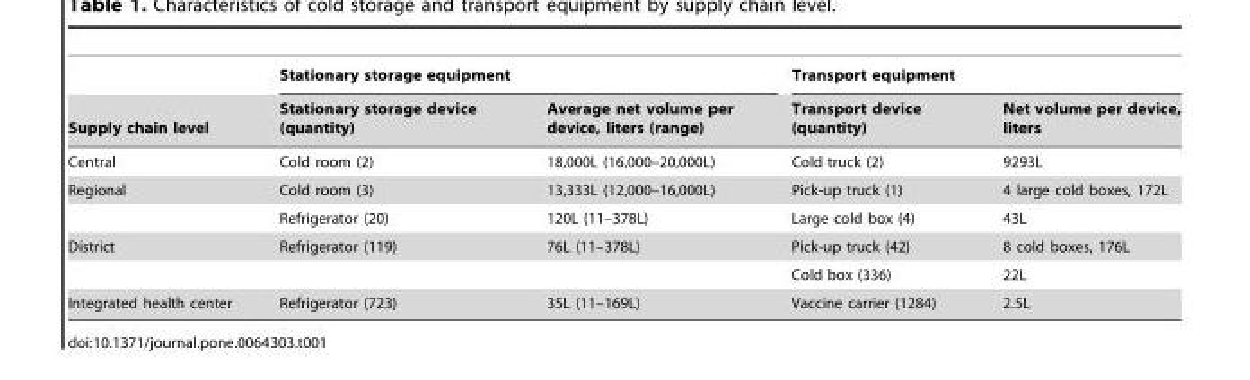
<table><thead><tr><td rowspan="2">Supply chain level</td><td colspan="2">Stationary storage equipment</td><td colspan="2">Transport equipment</td></tr><tr><td>Stationary storage device (quantity)</td><td>Average net volume per device, liters (range)</td><td>Transport device (quantity)</td><td>Net volume per device, liters</td></tr></thead><tbody><tr><td>Central</td><td>Cold room (2)</td><td>18,000L (16,000–20,000L)</td><td>Cold truck (2)</td><td>9293L</td></tr><tr><td rowspan="2">Regional</td><td>Cold room (3)</td><td>13,333L (12,000–16,000L)</td><td>Pick-up truck (1)</td><td>4 large cold boxes, 172L</td></tr><tr><td>Refrigerator (20)</td><td>120L (11–378L)</td><td>Large cold box (4)</td><td>43L</td></tr><tr><td rowspan="2">District</td><td>Refrigerator (119)</td><td>76L (11–378L)</td><td>Pick-up truck (42)</td><td>8 cold boxes, 176L</td></tr><tr><td></td><td></td><td>Cold box (336)</td><td>22L</td></tr><tr><td>Integrated health center</td><td>Refrigerator (723)</td><td>35L (11–169L)</td><td>Vaccine carrier (1284)</td><td>2.5L</td></tr></tbody></table>